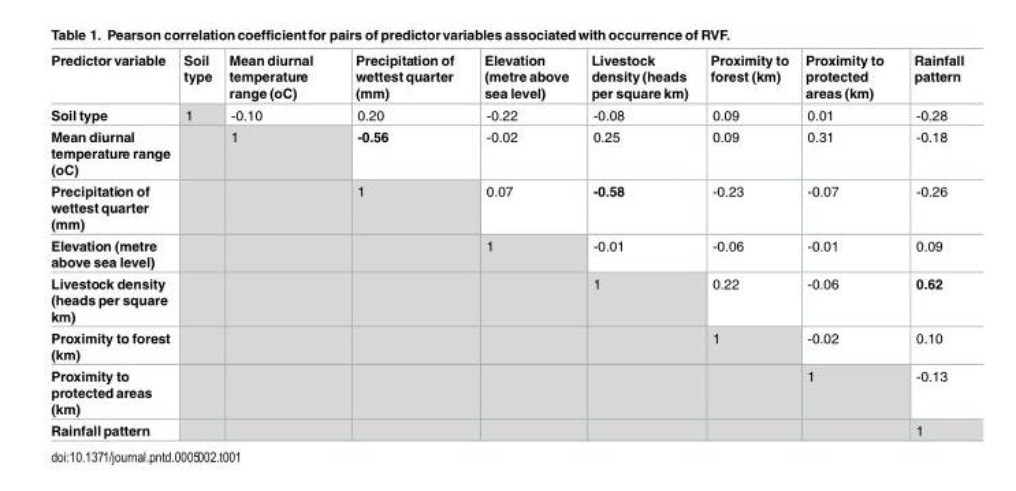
<table><thead><tr><td>Predictor variable</td><td>Soil type</td><td>Mean diurnal temperature range (oC)</td><td>Precipitation of wettest quarter (mm)</td><td>Elevation (metre above sea level)</td><td>Livestock density (heads per square km)</td><td>Proximity to forest (km)</td><td>Proximity to protected areas (km)</td><td>Rainfall pattern</td></tr></thead><tbody><tr><td>Soil type</td><td>1</td><td>-0.10</td><td>0.20</td><td>-0.22</td><td>-0.08</td><td>0.09</td><td>0.01</td><td>-0.28</td></tr><tr><td>Mean diurnal temperature range (oC)</td><td></td><td>1</td><td>-0.56</td><td>-0.02</td><td>0.25</td><td>0.09</td><td>0.31</td><td>-0.18</td></tr><tr><td>Precipitation of wettest quarter (mm)</td><td></td><td></td><td>1</td><td>0.07</td><td>-0.58</td><td>-0.23</td><td>-0.07</td><td>-0.26</td></tr><tr><td>Elevation (metre above sea level)</td><td></td><td></td><td></td><td>1</td><td>-0.01</td><td>-0.06</td><td>-0.01</td><td>0.09</td></tr><tr><td>Livestock density (heads per square km)</td><td></td><td></td><td></td><td></td><td>1</td><td>0.22</td><td>-0.06</td><td>0.62</td></tr><tr><td>Proximity to forest (km)</td><td></td><td></td><td></td><td></td><td></td><td>1</td><td>-0.02</td><td>0.10</td></tr><tr><td>Proximity to protected areas (km)</td><td></td><td></td><td></td><td></td><td></td><td></td><td>1</td><td>-0.13</td></tr><tr><td>Rainfall pattern</td><td></td><td></td><td></td><td></td><td></td><td></td><td></td><td>1</td></tr></tbody></table>